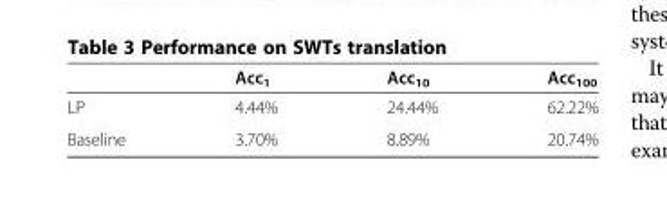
<table><thead><tr><td></td><td>Acc<sub>1</sub></td><td>Acc<sub>10</sub></td><td>Acc<sub>100</sub></td></tr></thead><tbody><tr><td>LP</td><td>4.44%</td><td>24.44%</td><td>62.22%</td></tr><tr><td>Baseline</td><td>3.70%</td><td>8.89%</td><td>20.74%</td></tr></tbody></table>